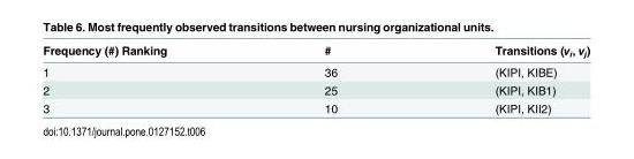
<table><thead><tr><td>Frequency (#) Ranking</td><td>#</td><td>Transitions (v<sub>i</sub>, v<sub>j</sub>)</td></tr></thead><tbody><tr><td>1</td><td>36</td><td>(KIPI, KIBE)</td></tr><tr><td>2</td><td>25</td><td>(KIPI, KIB1)</td></tr><tr><td>3</td><td>10</td><td>(KIPI, KII2)</td></tr></tbody></table>